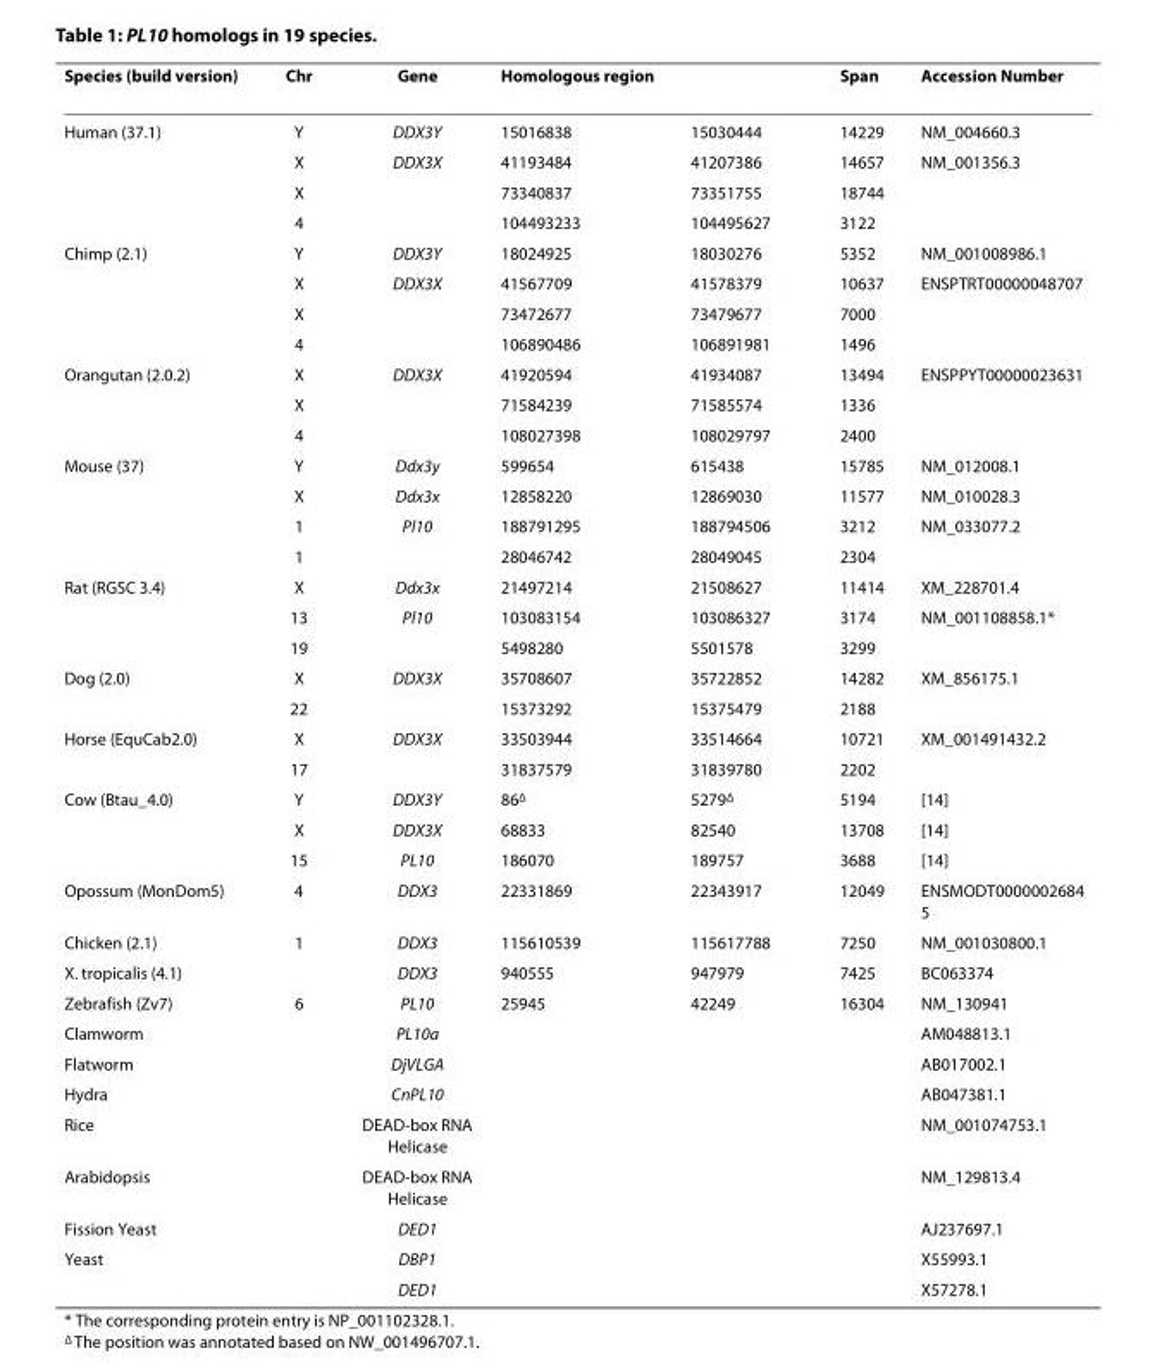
<table><thead><tr><td rowspan="2">Species (build version) Human (37.1)</td><td rowspan="2">Chr Y</td><td rowspan="2">Gene DDX3Y</td><td colspan="2">Homologous region</td><td rowspan="2">Span 14229</td><td rowspan="2">Accession Number NM_004660.3</td></tr><tr><td>15016838</td><td>15030444</td></tr></thead><tbody><tr><td></td><td>X</td><td>DDX3X</td><td>41193484</td><td>41207386</td><td>14657</td><td>NM_001356.3</td></tr><tr><td></td><td>X</td><td></td><td>73340837</td><td>73351755</td><td>18744</td><td></td></tr><tr><td></td><td>4</td><td></td><td>104493233</td><td>104495627</td><td>3122</td><td></td></tr><tr><td rowspan="4">Chimp (2.1)</td><td>Y</td><td>DDX3Y</td><td>18024925</td><td>18030276</td><td>5352</td><td>NM_001008986.1</td></tr><tr><td>X</td><td>DDX3X</td><td>41567709</td><td>41578379</td><td>10637</td><td>ENSPTRT00000048707</td></tr><tr><td>X</td><td></td><td>73472677</td><td>73479677</td><td>7000</td><td></td></tr><tr><td>4</td><td></td><td>106890486</td><td>106891981</td><td>1496</td><td></td></tr><tr><td rowspan="3">Orangutan (2.0.2)</td><td>X</td><td>DDX3X</td><td>41920594</td><td>41934087</td><td>13494</td><td>ENSPPYT00000023631</td></tr><tr><td>X</td><td></td><td>71584239</td><td>71585574</td><td>1336</td><td></td></tr><tr><td>4</td><td></td><td>108027398</td><td>108029797</td><td>2400</td><td></td></tr><tr><td rowspan="4">Mouse (37)</td><td>Y</td><td>Ddx3y</td><td>599654</td><td>615438</td><td>15785</td><td>NM_012008.1</td></tr><tr><td>X</td><td>Ddx3x</td><td>12858220</td><td>12869030</td><td>11577</td><td>NM_010028.3</td></tr><tr><td>1</td><td>Pl10</td><td>188791295</td><td>188794506</td><td>3212</td><td>NM_033077.2</td></tr><tr><td>1</td><td></td><td>28046742</td><td>28049045</td><td>2304</td><td></td></tr><tr><td rowspan="3">Rat (RGSC 3.4)</td><td>X</td><td>Ddx3x</td><td>21497214</td><td>21508627</td><td>11414</td><td>XM_228701.4</td></tr><tr><td>13</td><td>Pl10</td><td>103083154</td><td>103086327</td><td>3174</td><td>NM_001108858.1*</td></tr><tr><td>19</td><td></td><td>5498280</td><td>5501578</td><td>3299</td><td></td></tr><tr><td rowspan="2">Dog (2.0)</td><td>X</td><td>DDX3X</td><td>35708607</td><td>35722852</td><td>14282</td><td>XM_856175.1</td></tr><tr><td>22</td><td></td><td>15373292</td><td>15375479</td><td>2188</td><td></td></tr><tr><td rowspan="2">Horse (EquCab2.0)</td><td>X</td><td>DDX3X</td><td>33503944</td><td>33514664</td><td>10721</td><td>XM_001491432.2</td></tr><tr><td>17</td><td></td><td>31837579</td><td>31839780</td><td>2202</td><td></td></tr><tr><td rowspan="3">Cow (Btau_4.0)</td><td>Y</td><td>DDX3Y</td><td>86<sup>Δ</sup></td><td>5279<sup>Δ</sup></td><td>5194</td><td>[14]</td></tr><tr><td>X</td><td>DDX3X</td><td>68833</td><td>82540</td><td>13708</td><td>[14]</td></tr><tr><td>15</td><td>PL10</td><td>186070</td><td>189757</td><td>3688</td><td>[14]</td></tr><tr><td>Opossum (MonDom5)</td><td>4</td><td>DDX3</td><td>22331869</td><td>22343917</td><td>12049</td><td>ENSMODT0000002684 5</td></tr><tr><td>Chicken (2.1)</td><td>1</td><td>DDX3</td><td>115610539</td><td>115617788</td><td>7250</td><td>NM_001030800.1</td></tr><tr><td>X. tropicalis (4.1)</td><td></td><td>DDX3</td><td>940555</td><td>947979</td><td>7425</td><td>BC063374</td></tr><tr><td>Zebrafish (Zv7)</td><td>6</td><td>PL10</td><td>25945</td><td>42249</td><td>16304</td><td>NM_130941</td></tr><tr><td>Clamworm</td><td></td><td>PL10a</td><td></td><td></td><td></td><td>AM048813.1</td></tr><tr><td>Flatworm</td><td></td><td>DjVLGA</td><td></td><td></td><td></td><td>AB017002.1</td></tr><tr><td>Hydra</td><td></td><td>CnPL10</td><td></td><td></td><td></td><td>AB047381.1</td></tr><tr><td>Rice</td><td></td><td>DEAD-box RNA Helicase</td><td></td><td></td><td></td><td>NM_001074753.1</td></tr><tr><td>Arabidopsis</td><td></td><td>DEAD-box RNA Helicase</td><td></td><td></td><td></td><td>NM_129813.4</td></tr><tr><td>Fission Yeast</td><td></td><td>DED1</td><td></td><td></td><td></td><td>AJ237697.1</td></tr><tr><td rowspan="2">Yeast</td><td></td><td>DBP1</td><td></td><td></td><td></td><td>X55993.1</td></tr><tr><td></td><td>DED1</td><td></td><td></td><td></td><td>X57278.1</td></tr></tbody></table>